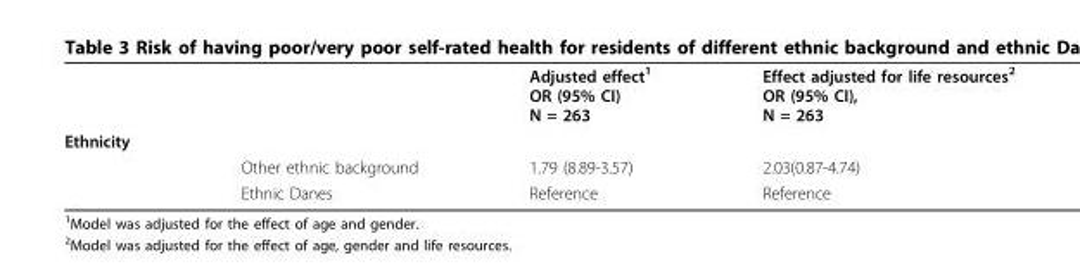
<table><thead><tr><td></td><td></td><td>Adjusted effect<sup>1</sup> OR (95% CI) N = 263</td><td>Effect adjusted for life resources<sup>2</sup> OR (95% CI), N = 263</td></tr></thead><tbody><tr><td colspan="4">Ethnicity</td></tr><tr><td></td><td>Other ethnic background</td><td>1.79 (8.89-3.57)</td><td>2.03(0.87-4.74)</td></tr><tr><td></td><td>Ethnic Danes</td><td>Reference</td><td>Reference</td></tr></tbody></table>